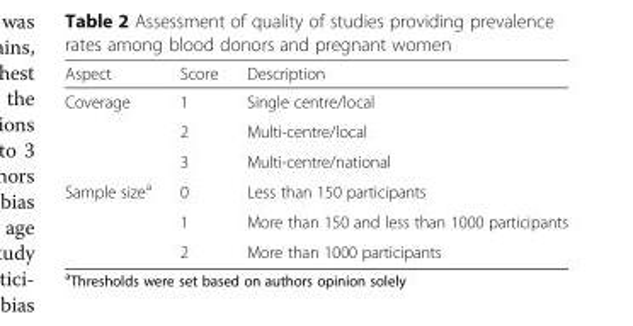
<table><thead><tr><td>Aspect</td><td>Score</td><td>Description</td></tr></thead><tbody><tr><td rowspan="3">Coverage</td><td>1</td><td>Single centre/local</td></tr><tr><td>2</td><td>Multi-centre/local</td></tr><tr><td>3</td><td>Multi-centre/national</td></tr><tr><td rowspan="3">Sample size<sup>a</sup></td><td>0</td><td>Less than 150 participants</td></tr><tr><td>1</td><td>More than 150 and less than 1000 participants</td></tr><tr><td>2</td><td>More than 1000 participants</td></tr></tbody></table>